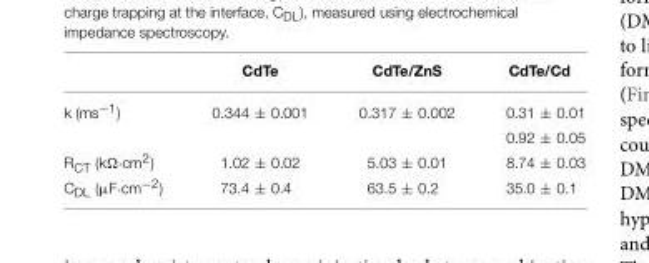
<table><thead><tr><td></td><td>CdTe</td><td>CdTe/ZnS</td><td>CdTe/Cd</td></tr></thead><tbody><tr><td rowspan="2">k (ms<sup>−1</sup>)</td><td>0.344 ± 0.001</td><td>0.317 ± 0.002</td><td>0.31 ± 0.01</td></tr><tr><td></td><td></td><td>0.92 ± 0.05</td></tr><tr><td>R<sub>CT</sub> (kΩ·cm<sup>2</sup>)</td><td>1.02 ± 0.02</td><td>5.03 ± 0.01</td><td>8.74 ± 0.03</td></tr><tr><td>C<sub>DL</sub> (µF·cm<sup>−2</sup>)</td><td>73.4 ± 0.4</td><td>63.5 ± 0.2</td><td>35.0 ± 0.1</td></tr></tbody></table>